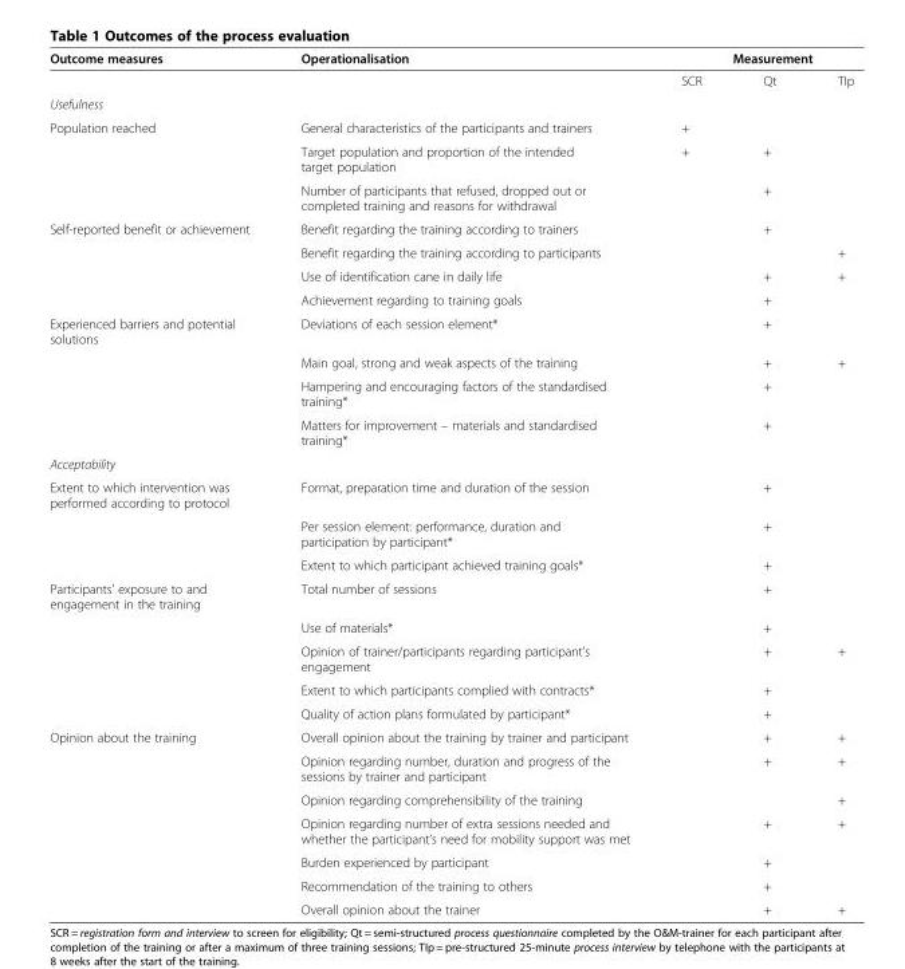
<table><thead><tr><td rowspan="2">Outcome measures</td><td rowspan="2">Operationalisation</td><td colspan="3">Measurement</td></tr><tr><td>SCR</td><td>Qt</td><td>TIp</td></tr></thead><tbody><tr><td colspan="5">Usefulness</td></tr><tr><td rowspan="3">Population reached</td><td>General characteristics of the participants and trainers</td><td>+</td><td></td><td></td></tr><tr><td>Target population and proportion of the intended target population</td><td>+</td><td>+</td><td></td></tr><tr><td>Number of participants that refused, dropped out or completed training and reasons for withdrawal</td><td></td><td>+</td><td></td></tr><tr><td rowspan="4">Self-reported benefit or achievement</td><td>Benefit regarding the training according to trainers</td><td></td><td>+</td><td></td></tr><tr><td>Benefit regarding the training according to participants</td><td></td><td></td><td>+</td></tr><tr><td>Use of identification cane in daily life</td><td></td><td>+</td><td>+</td></tr><tr><td>Achievement regarding to training goals</td><td></td><td>+</td><td></td></tr><tr><td rowspan="4">Experienced barriers and potential solutions</td><td>Deviations of each session element*</td><td></td><td>+</td><td></td></tr><tr><td>Main goal, strong and weak aspects of the training</td><td></td><td>+</td><td>+</td></tr><tr><td>Hampering and encouraging factors of the standardised training*</td><td></td><td>+</td><td></td></tr><tr><td>Matters for improvement – materials and standardised training*</td><td></td><td>+</td><td></td></tr><tr><td colspan="5">Acceptability</td></tr><tr><td rowspan="3">Extent to which intervention was performed according to protocol</td><td>Format, preparation time and duration of the session</td><td></td><td>+</td><td></td></tr><tr><td>Per session element: performance, duration and participation by participant*</td><td></td><td>+</td><td></td></tr><tr><td>Extent to which participant achieved training goals*</td><td></td><td>+</td><td></td></tr><tr><td rowspan="5">Participants’ exposure to and engagement in the training</td><td>Total number of sessions</td><td></td><td>+</td><td></td></tr><tr><td>Use of materials*</td><td></td><td>+</td><td></td></tr><tr><td>Opinion of trainer/participants regarding participant’s engagement</td><td></td><td>+</td><td>+</td></tr><tr><td>Extent to which participants complied with contracts*</td><td></td><td>+</td><td></td></tr><tr><td>Quality of action plans formulated by participant*</td><td></td><td>+</td><td></td></tr><tr><td rowspan="7">Opinion about the training</td><td>Overall opinion about the training by trainer and participant</td><td></td><td>+</td><td>+</td></tr><tr><td>Opinion regarding number, duration and progress of the sessions by trainer and participant</td><td></td><td>+</td><td>+</td></tr><tr><td>Opinion regarding comprehensibility of the training</td><td></td><td></td><td>+</td></tr><tr><td>Opinion regarding number of extra sessions needed and whether the participant’s need for mobility support was met</td><td></td><td>+</td><td>+</td></tr><tr><td>Burden experienced by participant</td><td></td><td>+</td><td></td></tr><tr><td>Recommendation of the training to others</td><td></td><td>+</td><td></td></tr><tr><td>Overall opinion about the trainer</td><td></td><td>+</td><td>+</td></tr></tbody></table>